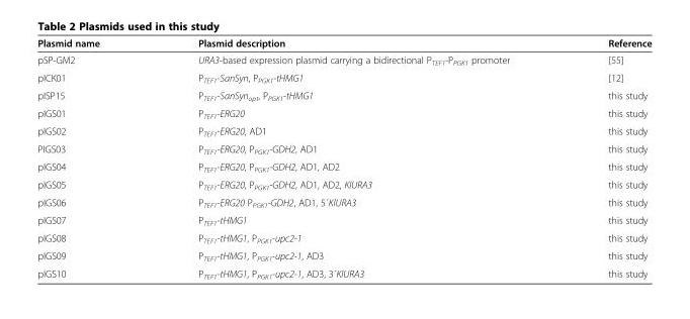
<table><thead><tr><td>Plasmid name</td><td>Plasmid description</td><td>Reference</td></tr></thead><tbody><tr><td>pSP-GM2</td><td>URA3-based expression plasmid carrying a bidirectional P<sub>TEF1</sub>-P<sub>PGK1</sub> promoter</td><td>[55]</td></tr><tr><td>pICK01</td><td>P<sub>TEF1</sub>-SanSyn, P<sub>PGK1</sub>-tHMG1</td><td>[12]</td></tr><tr><td>pISP15</td><td>P<sub>TEF1</sub>-SanSyn<sub>opt</sub>, P<sub>PGK1</sub>-tHMG1</td><td>this study</td></tr><tr><td>pIGS01</td><td>P<sub>TEF1</sub>-ERG20</td><td>this study</td></tr><tr><td>pIGS02</td><td>P<sub>TEF1</sub>-ERG20, AD1</td><td>this study</td></tr><tr><td>PIGS03</td><td>P<sub>TEF1</sub>-ERG20, P<sub>PGK1</sub>-GDH2, AD1</td><td>this study</td></tr><tr><td>pIGS04</td><td>P<sub>TEF1</sub>-ERG20, P<sub>PGK1</sub>-GDH2, AD1, AD2</td><td>this study</td></tr><tr><td>pIGS05</td><td>P<sub>TEF1</sub>-ERG20, P<sub>PGK1</sub>-GDH2, AD1, AD2, KlURA3</td><td>this study</td></tr><tr><td>pIGS06</td><td>P<sub>TEF1</sub>-ERG20 P<sub>PGK1</sub>-GDH2, AD1, 5´KlURA3</td><td>this study</td></tr><tr><td>pIGS07</td><td>P<sub>TEF1</sub>-tHMG1</td><td>this study</td></tr><tr><td>pIGS08</td><td>P<sub>TEF1</sub>-tHMG1, P<sub>PGK1</sub>-upc2-1</td><td>this study</td></tr><tr><td>pIGS09</td><td>P<sub>TEF1</sub>-tHMG1, P<sub>PGK1</sub>-upc2-1, AD3</td><td>this study</td></tr><tr><td>pIGS10</td><td>P<sub>TEF1</sub>-tHMG1, P<sub>PGK1</sub>-upc2-1, AD3, 3´KlURA3</td><td>this study</td></tr></tbody></table>